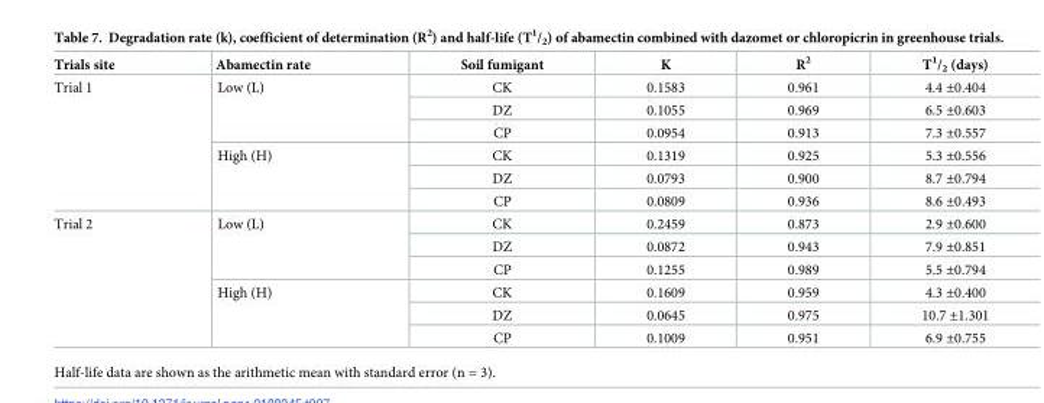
<table><thead><tr><td>Trials site</td><td>Abamectin rate</td><td>Soil fumigant</td><td>K</td><td>R<sup>2</sup></td><td>T<sup>1</sup>/<sub>2</sub> (days)</td></tr></thead><tbody><tr><td rowspan="6">Trial 1</td><td rowspan="3">Low (L)</td><td>CK</td><td>0.1583</td><td>0.961</td><td>4.4 ±0.404</td></tr><tr><td>DZ</td><td>0.1055</td><td>0.969</td><td>6.5 ±0.603</td></tr><tr><td>CP</td><td>0.0954</td><td>0.913</td><td>7.3 ±0.557</td></tr><tr><td rowspan="3">High (H)</td><td>CK</td><td>0.1319</td><td>0.925</td><td>5.3 ±0.556</td></tr><tr><td>DZ</td><td>0.0793</td><td>0.900</td><td>8.7 ±0.794</td></tr><tr><td>CP</td><td>0.0809</td><td>0.936</td><td>8.6 ±0.493</td></tr><tr><td rowspan="6">Trial 2</td><td rowspan="3">Low (L)</td><td>CK</td><td>0.2459</td><td>0.873</td><td>2.9 ±0.600</td></tr><tr><td>DZ</td><td>0.0872</td><td>0.943</td><td>7.9 ±0.851</td></tr><tr><td>CP</td><td>0.1255</td><td>0.989</td><td>5.5 ±0.794</td></tr><tr><td rowspan="3">High (H)</td><td>CK</td><td>0.1609</td><td>0.959</td><td>4.3 ±0.400</td></tr><tr><td>DZ</td><td>0.0645</td><td>0.975</td><td>10.7 ±1.301</td></tr><tr><td>CP</td><td>0.1009</td><td>0.951</td><td>6.9 ±0.755</td></tr></tbody></table>